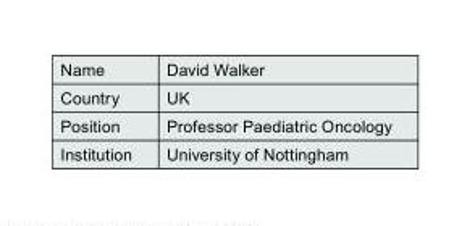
<table><tbody><tr><td>Name</td><td>David Walker</td></tr><tr><td>Country</td><td>UK</td></tr><tr><td>Position</td><td>Professor Paediatric Oncology</td></tr><tr><td>Institution</td><td>University of Nottingham</td></tr></tbody></table>